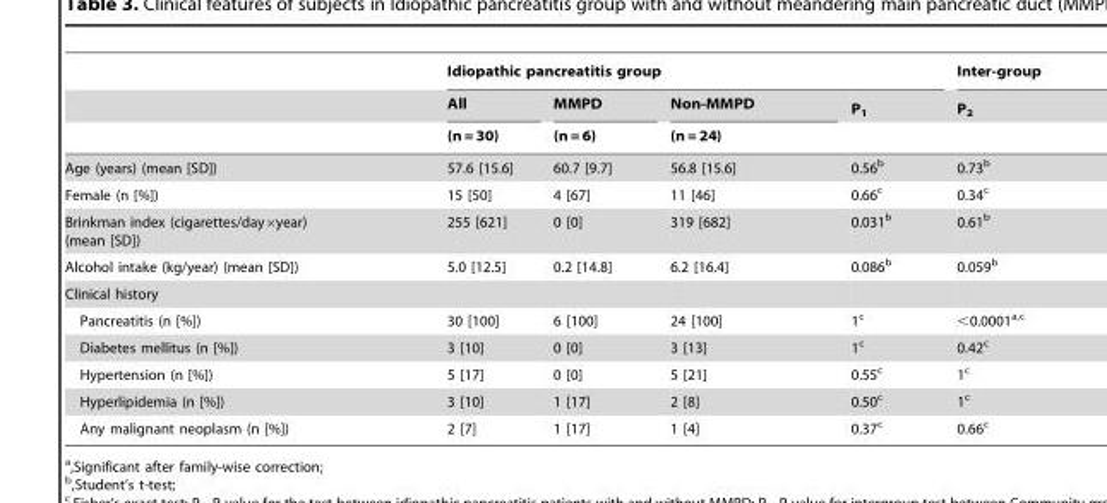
<table><thead><tr><td rowspan="3"></td><td colspan="4">Idiopathic pancreatitis group</td><td rowspan="3">Inter-group P<sub>2</sub></td></tr><tr><td rowspan="2">All (n = 30)</td><td rowspan="2">MMPD (n = 6)</td><td rowspan="2">Non-MMPD (n = 24)</td><td rowspan="2">P<sub>1</sub></td></tr><tr></tr></thead><tbody><tr><td>Age (years) (mean [SD])</td><td>57.6 [15.6]</td><td>60.7 [9.7]</td><td>56.8 [15.6]</td><td>0.56<sup>b</sup></td><td>0.73<sup>b</sup></td></tr><tr><td>Female (n [%])</td><td>15 [50]</td><td>4 [67]</td><td>11 [46]</td><td>0.66<sup>c</sup></td><td>0.34<sup>c</sup></td></tr><tr><td>Brinkman index (cigarettes/day×year) (mean [SD])</td><td>255 [621]</td><td>0 [0]</td><td>319 [682]</td><td>0.031<sup>b</sup></td><td>0.61<sup>b</sup></td></tr><tr><td>Alcohol intake (kg/year) (mean [SD])</td><td>5.0 [12.5]</td><td>0.2 [14.8]</td><td>6.2 [16.4]</td><td>0.086<sup>b</sup></td><td>0.059<sup>b</sup></td></tr><tr><td colspan="6">Clinical history</td></tr><tr><td>Pancreatitis (n [%])</td><td>30 [100]</td><td>6 [100]</td><td>24 [100]</td><td>1<sup>c</sup></td><td>&lt;0.0001a,c</td></tr><tr><td>Diabetes mellitus (n [%])</td><td>3 [10]</td><td>0 [0]</td><td>3 [13]</td><td>1<sup>c</sup></td><td>0.42<sup>c</sup></td></tr><tr><td>Hypertension (n [%])</td><td>5 [17]</td><td>0 [0]</td><td>5 [21]</td><td>0.55<sup>c</sup></td><td>1<sup>c</sup></td></tr><tr><td>Hyperlipidemia (n [%])</td><td>3 [10]</td><td>1 [17]</td><td>2 [8]</td><td>0.50<sup>c</sup></td><td>1<sup>c</sup></td></tr><tr><td>Any malignant neoplasm (n [%])</td><td>2 [7]</td><td>1 [17]</td><td>1 [4]</td><td>0.37<sup>c</sup></td><td>0.66<sup>c</sup></td></tr></tbody></table>